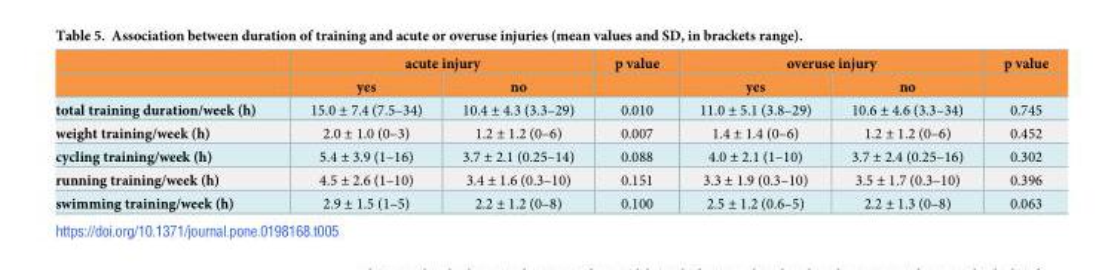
<table><thead><tr><td rowspan="2"></td><td colspan="2">acute injury</td><td rowspan="2">p value</td><td colspan="2">overuse injury</td><td rowspan="2">p value</td></tr><tr><td>yes</td><td>no</td><td>yes</td><td>no</td></tr></thead><tbody><tr><td>total training duration/week (h)</td><td>15.0 ± 7.4 (7.5–34)</td><td>10.4 ± 4.3 (3.3–29)</td><td>0.010</td><td>11.0 ± 5.1 (3.8–29)</td><td>10.6 ± 4.6 (3.3–34)</td><td>0.745</td></tr><tr><td>weight training/week (h)</td><td>2.0 ± 1.0 (0–3)</td><td>1.2 ± 1.2 (0–6)</td><td>0.007</td><td>1.4 ± 1.4 (0–6)</td><td>1.2 ± 1.2 (0–6)</td><td>0.452</td></tr><tr><td>cycling training/week (h)</td><td>5.4 ± 3.9 (1–16)</td><td>3.7 ± 2.1 (0.25–14)</td><td>0.088</td><td>4.0 ± 2.1 (1–10)</td><td>3.7 ± 2.4 (0.25–16)</td><td>0.302</td></tr><tr><td>running training/week (h)</td><td>4.5 ± 2.6 (1–10)</td><td>3.4 ± 1.6 (0.3–10)</td><td>0.151</td><td>3.3 ± 1.9 (0.3–10)</td><td>3.5 ± 1.7 (0.3–10)</td><td>0.396</td></tr><tr><td>swimming training/week (h)</td><td>2.9 ± 1.5 (1–5)</td><td>2.2 ± 1.2 (0–8)</td><td>0.100</td><td>2.5 ± 1.2 (0.6–5)</td><td>2.2 ± 1.3 (0–8)</td><td>0.063</td></tr></tbody></table>